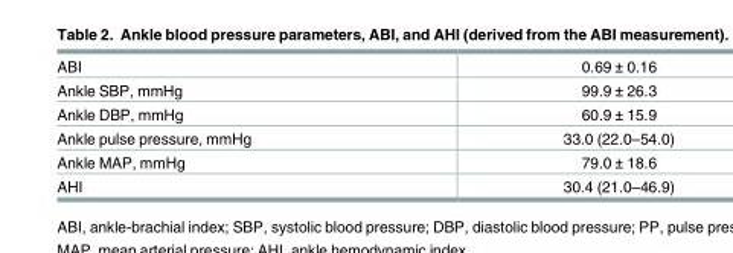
<table><tbody><tr><td>ABI</td><td>0.69 ± 0.16</td></tr><tr><td>Ankle SBP, mmHg</td><td>99.9 ± 26.3</td></tr><tr><td>Ankle DBP, mmHg</td><td>60.9 ± 15.9</td></tr><tr><td>Ankle pulse pressure, mmHg</td><td>33.0 (22.0–54.0)</td></tr><tr><td>Ankle MAP, mmHg</td><td>79.0 ± 18.6</td></tr><tr><td>AHI</td><td>30.4 (21.0–46.9)</td></tr></tbody></table>